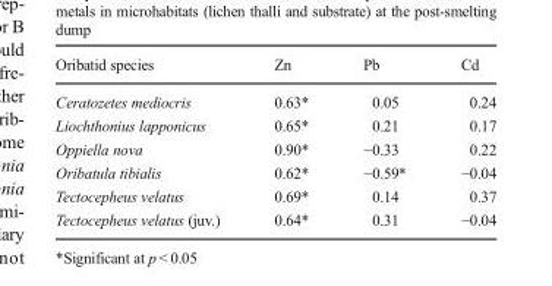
<table><thead><tr><td>Oribatid species</td><td>Zn</td><td>Pb</td><td>Cd</td></tr></thead><tbody><tr><td>Ceratozetes mediocris</td><td>0.63*</td><td>0.05</td><td>0.24</td></tr><tr><td>Liochthonius lapponicus</td><td>0.65*</td><td>0.21</td><td>0.17</td></tr><tr><td>Oppiella nova</td><td>0.90*</td><td>−0.33</td><td>0.22</td></tr><tr><td>Oribatula tibialis</td><td>0.62*</td><td>−0.59*</td><td>−0.04</td></tr><tr><td>Tectocepheus velatus</td><td>0.69*</td><td>0.14</td><td>0.37</td></tr><tr><td>Tectocepheus velatus (juv.)</td><td>0.64*</td><td>0.31</td><td>−0.04</td></tr></tbody></table>